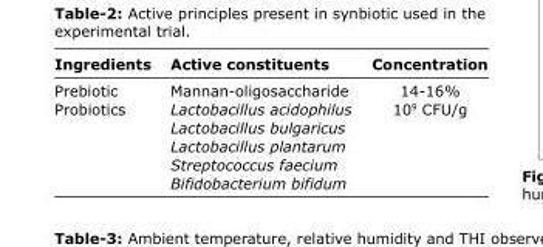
<table><thead><tr><td>Ingredients</td><td>Active constituents</td><td>Concentration</td></tr></thead><tbody><tr><td>Prebiotic</td><td>Mannan-oligosaccharide</td><td>14-16%</td></tr><tr><td rowspan="5">Probiotics</td><td>Lactobacillus acidophilus</td><td>10<sup>9</sup> CFU/g</td></tr><tr><td>Lactobacillus bulgaricus</td><td></td></tr><tr><td>Lactobacillus plantarum</td><td></td></tr><tr><td>Streptococcus faecium</td><td></td></tr><tr><td>Bifidobacterium bifidum</td><td></td></tr></tbody></table>